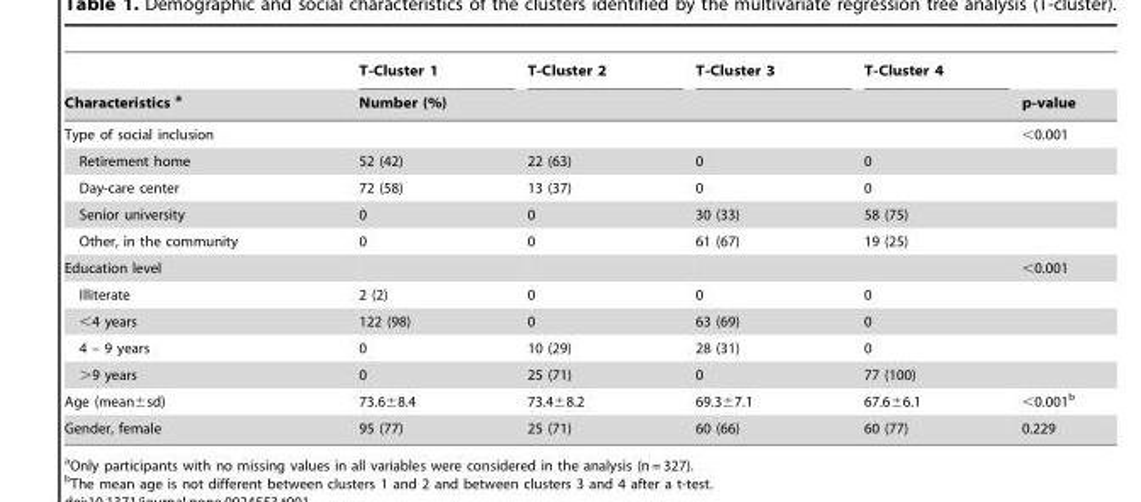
<table><thead><tr><td rowspan="2">Characteristics a</td><td>T-Cluster 1</td><td>T-Cluster 2</td><td>T-Cluster 3</td><td>T-Cluster 4</td><td rowspan="2">p-value</td></tr><tr><td colspan="4">Number (%)</td></tr></thead><tbody><tr><td>Type of social inclusion</td><td></td><td></td><td></td><td></td><td>&lt;0.001</td></tr><tr><td>Retirement home</td><td>52 (42)</td><td>22 (63)</td><td>0</td><td>0</td><td></td></tr><tr><td>Day-care center</td><td>72 (58)</td><td>13 (37)</td><td>0</td><td>0</td><td></td></tr><tr><td>Senior university</td><td>0</td><td>0</td><td>30 (33)</td><td>58 (75)</td><td></td></tr><tr><td>Other, in the community</td><td>0</td><td>0</td><td>61 (67)</td><td>19 (25)</td><td></td></tr><tr><td>Education level</td><td></td><td></td><td></td><td></td><td>&lt;0.001</td></tr><tr><td>Illiterate</td><td>2 (2)</td><td>0</td><td>0</td><td>0</td><td></td></tr><tr><td>&lt;4 years</td><td>122 (98)</td><td>0</td><td>63 (69)</td><td>0</td><td></td></tr><tr><td>4 – 9 years</td><td>0</td><td>10 (29)</td><td>28 (31)</td><td>0</td><td></td></tr><tr><td>&gt;9 years</td><td>0</td><td>25 (71)</td><td>0</td><td>77 (100)</td><td></td></tr><tr><td>Age (mean±sd)</td><td>73.6±8.4</td><td>73.4±8.2</td><td>69.3±7.1</td><td>67.6±6.1</td><td>&lt;0.001<sup>b</sup></td></tr><tr><td>Gender, female</td><td>95 (77)</td><td>25 (71)</td><td>60 (66)</td><td>60 (77)</td><td>0.229</td></tr></tbody></table>